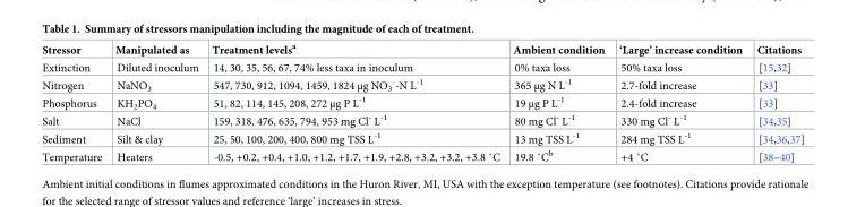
<table><thead><tr><td>Stressor</td><td>Manipulated as</td><td>Treatment levels<sup>a</sup></td><td>Ambient condition</td><td>‘Large’ increase condition</td><td>Citations</td></tr></thead><tbody><tr><td>Extinction</td><td>Diluted inoculum</td><td>14, 30, 35, 56, 67, 74% less taxa in inoculum</td><td>0% taxa loss</td><td>50% taxa loss</td><td>[15,32]</td></tr><tr><td>Nitrogen</td><td>NaNO<sub>3</sub></td><td>547, 730, 912, 1094, 1459, 1824 μg NO<sub>3</sub> <sup>-</sup>-N L<sup>-1</sup></td><td>365 μg N L<sup>-1</sup></td><td>2.7-fold increase</td><td>[33]</td></tr><tr><td>Phosphorus</td><td>KH<sub>2</sub>PO<sub>4</sub></td><td>51, 82, 114, 145, 208, 272 μg P L<sup>-1</sup></td><td>19 μg P L<sup>-1</sup></td><td>2.4-fold increase</td><td>[33]</td></tr><tr><td>Salt</td><td>NaCl</td><td>159, 318, 476, 635, 794, 953 mg Cl<sup>-</sup> L<sup>-1</sup></td><td>80 mg Cl<sup>-</sup> L<sup>-1</sup></td><td>330 mg Cl<sup>-</sup> L<sup>-1</sup></td><td>[34,35]</td></tr><tr><td>Sediment</td><td>Silt &amp; clay</td><td>25, 50, 100, 200, 400, 800 mg TSS L<sup>-1</sup></td><td>13 mg TSS L<sup>-1</sup></td><td>284 mg TSS L<sup>-1</sup></td><td>[34,36,37]</td></tr><tr><td>Temperature</td><td>Heaters</td><td>-0.5, +0.2, +0.4, +1.0, +1.2, +1.7, +1.9, +2.8, +3.2, +3.2, +3.8 ˚C</td><td>19.8 ˚Cb</td><td>+4 ˚C</td><td>[38–40]</td></tr></tbody></table>